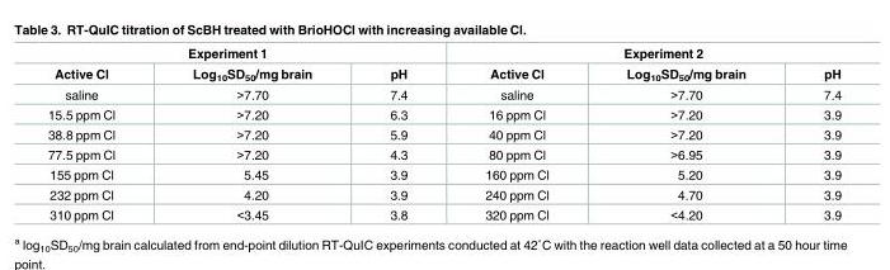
<table><thead><tr><td colspan="3">Experiment 1</td><td colspan="3">Experiment 2</td></tr><tr><td>Active Cl</td><td>Log<sub>10</sub>SD<sub>50</sub>/mg brain</td><td>pH</td><td>Active Cl</td><td>Log<sub>10</sub>SD<sub>50</sub>/mg brain</td><td>pH</td></tr></thead><tbody><tr><td>saline</td><td>&gt;7.70</td><td>7.4</td><td>saline</td><td>&gt;7.70</td><td>7.4</td></tr><tr><td>15.5 ppm Cl</td><td>&gt;7.20</td><td>6.3</td><td>16 ppm Cl</td><td>&gt;7.20</td><td>3.9</td></tr><tr><td>38.8 ppm Cl</td><td>&gt;7.20</td><td>5.9</td><td>40 ppm Cl</td><td>&gt;7.20</td><td>3.9</td></tr><tr><td>77.5 ppm Cl</td><td>&gt;7.20</td><td>4.3</td><td>80 ppm Cl</td><td>&gt;6.95</td><td>3.9</td></tr><tr><td>155 ppm Cl</td><td>5.45</td><td>3.9</td><td>160 ppm Cl</td><td>5.20</td><td>3.9</td></tr><tr><td>232 ppm Cl</td><td>4.20</td><td>3.9</td><td>240 ppm Cl</td><td>4.70</td><td>3.9</td></tr><tr><td>310 ppm Cl</td><td>&lt;3.45</td><td>3.8</td><td>320 ppm Cl</td><td>&lt;4.20</td><td>3.9</td></tr></tbody></table>